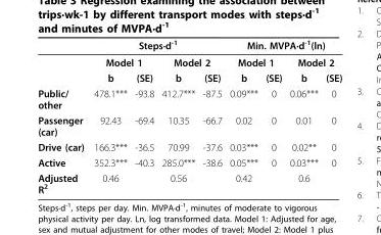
<table><thead><tr><td rowspan="3"></td><td colspan="4">Steps·d<sup>-1</sup></td><td colspan="4">Min. MVPA·d<sup>-1</sup>(ln)</td></tr><tr><td colspan="2">Model 1</td><td colspan="2">Model 2</td><td colspan="2">Model 1</td><td colspan="2">Model 2</td></tr><tr><td>b</td><td>(SE)</td><td>b</td><td>(SE)</td><td>b</td><td>(SE)</td><td>b</td><td>(SE)</td></tr></thead><tbody><tr><td>Public/ other</td><td>478.1***</td><td>-93.8</td><td>412.7***</td><td>-87.5</td><td>0.09***</td><td>0</td><td>0.06***</td><td>0</td></tr><tr><td>Passenger (car)</td><td>92.43</td><td>-69.4</td><td>10.35</td><td>-66.7</td><td>0.02</td><td>0</td><td>0.01</td><td>0</td></tr><tr><td>Drive (car)</td><td>166.3***</td><td>-36.5</td><td>70.99</td><td>-37.6</td><td>0.03***</td><td>0</td><td>0.02**</td><td>0</td></tr><tr><td>Active</td><td>352.3***</td><td>-40.3</td><td>285.0***</td><td>-38.6</td><td>0.05***</td><td>0</td><td>0.03***</td><td>0</td></tr><tr><td>Adjusted R<sup>2</sup></td><td>0.46</td><td></td><td>0.56</td><td></td><td>0.42</td><td></td><td>0.6</td><td></td></tr></tbody></table>